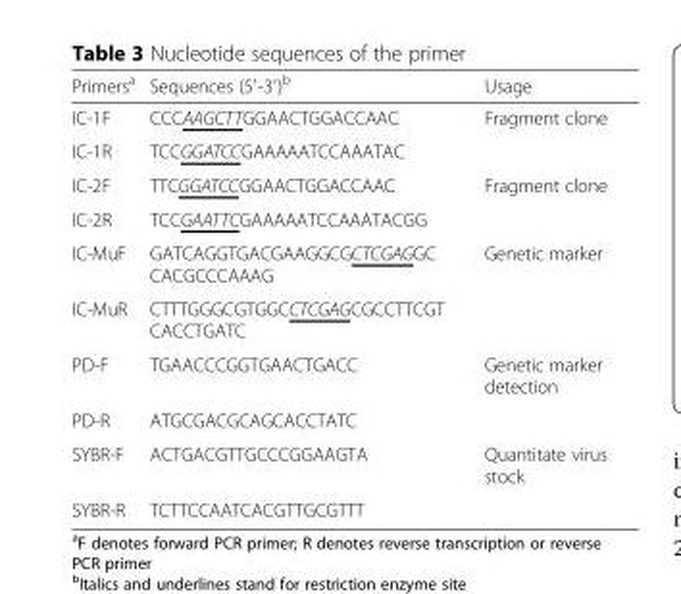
<table><thead><tr><td>Primers<sup>a</sup></td><td>Sequences (5′-3′)<sup>b</sup></td><td>Usage</td></tr></thead><tbody><tr><td>IC-1F</td><td>CCCAAGCTTGGAACTGGACCAAC</td><td>Fragment clone</td></tr><tr><td>IC-1R</td><td>TCCGGATCCGAAAAATCCAAATAC</td><td></td></tr><tr><td>IC-2F</td><td>TTCGGATCCGGAACTGGACCAAC</td><td>Fragment clone</td></tr><tr><td>IC-2R</td><td>TCCGAATTCGAAAAATCCAAATACGG</td><td></td></tr><tr><td>IC-MuF</td><td>GATCAGGTGACGAAGGCGCTCGAGGC CACGCCCAAAG</td><td>Genetic marker</td></tr><tr><td>IC-MuR</td><td>CTTTGGGCGTGGCCTCGAGCGCCTTCGT CACCTGATC</td><td></td></tr><tr><td>PD-F</td><td>TGAACCCGGTGAACTGACC</td><td>Genetic marker detection</td></tr><tr><td>PD-R</td><td>ATGCGACGCAGCACCTATC</td><td></td></tr><tr><td>SYBR-F</td><td>ACTGACGTTGCCCGGAAGTA</td><td>Quantitate virus stock</td></tr><tr><td>SYBR-R</td><td>TCTTCCAATCACGTTGCGTTT</td><td></td></tr></tbody></table>